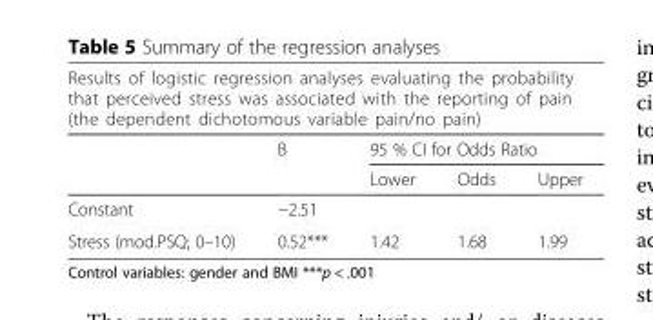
<table><thead><tr><td colspan="5">Results of logistic regression analyses evaluating the probability that perceived stress was associated with the reporting of pain (the dependent dichotomous variable pain/no pain)</td></tr><tr><td rowspan="2"></td><td rowspan="2">B</td><td colspan="3">95 % CI for Odds Ratio</td></tr><tr><td>Lower</td><td>Odds</td><td>Upper</td></tr></thead><tbody><tr><td>Constant</td><td>−2.51</td><td></td><td></td><td></td></tr><tr><td>Stress (mod.PSQ; 0–10)</td><td>0.52***</td><td>1.42</td><td>1.68</td><td>1.99</td></tr></tbody></table>